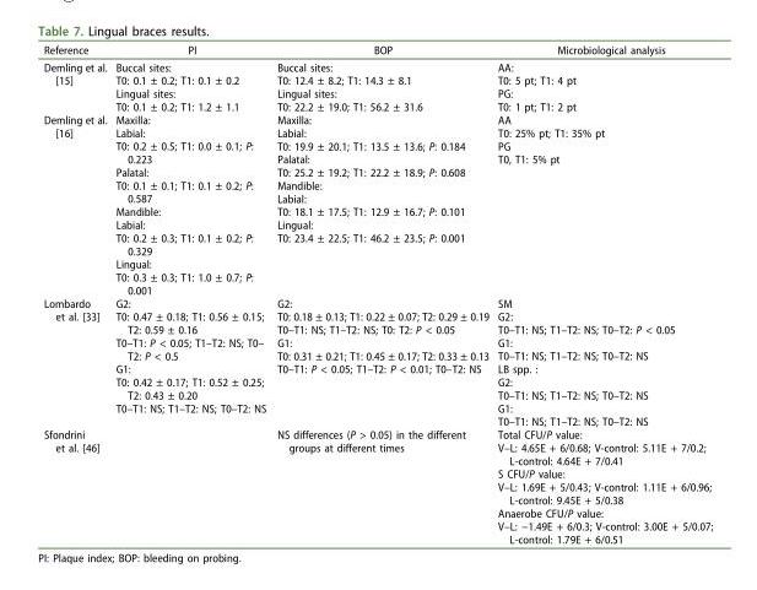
<table><thead><tr><td>Reference</td><td>PI</td><td>BOP</td><td>Microbiological analysis</td></tr></thead><tbody><tr><td>Demling et al. [15]</td><td>Buccal sites: T0: 0.1 ± 0.2; T1: 0.1 ± 0.2 Lingual sites: T0: 0.1 ± 0.2; T1: 1.2 ± 1.1</td><td>Buccal sites: T0: 12.4 ± 8.2; T1: 14.3 ± 8.1 Lingual sites: T0: 22.2 ± 19.0; T1: 56.2 ± 31.6</td><td>AA: T0: 5 pt; T1: 4 pt PG: T0: 1 pt; T1: 2 pt</td></tr><tr><td>Demling et al. [16]</td><td>Maxilla: Labial: T0: 0.2 ± 0.5; T1: 0.0 ± 0.1; P: 0.223 Palatal: T0: 0.1 ± 0.1; T1: 0.1 ± 0.2; P: 0.587 Mandible: Labial: T0: 0.2 ± 0.3; T1: 0.1 ± 0.2; P: 0.329 Lingual: T0: 0.3 ± 0.3; T1: 1.0 ± 0.7; P: 0.001</td><td>Maxilla: Labial: T0: 19.9 ± 20.1; T1: 13.5 ± 13.6; P: 0.184 Palatal: T0: 25.2 ± 19.2; T1: 22.2 ± 18.9; P: 0.608 Mandible: Labial: T0: 18.1 ± 17.5; T1: 12.9 ± 16.7; P: 0.101 Lingual: T0: 23.4 ± 22.5; T1: 46.2 ± 23.5; P: 0.001</td><td>AA T0: 25% pt; T1: 35% pt PG T0, T1: 5% pt</td></tr><tr><td>Lombardo et al. [33]</td><td>G2: T0: 0.47 ± 0.18; T1: 0.56 ± 0.15; T2: 0.59 ± 0.16 T0–T1: P &lt; 0.05; T1–T2: NS; T0– T2: P &lt; 0.5 G1: T0: 0.42 ± 0.17; T1: 0.52 ± 0.25; T2: 0.43 ± 0.20 T0–T1: NS; T1–T2: NS; T0–T2: NS</td><td>G2: T0: 0.18 ± 0.13; T1: 0.22 ± 0.07; T2: 0.29 ± 0.19 T0–T1: NS; T1–T2: NS; T0: T2: P &lt; 0.05 G1: T0: 0.31 ± 0.21; T1: 0.45 ± 0.17; T2: 0.33 ± 0.13 T0–T1: P &lt; 0.05; T1–T2: P &lt; 0.01; T0–T2: NS</td><td>SM G2: T0–T1: NS; T1–T2: NS; T0–T2: P &lt; 0.05 G1: T0–T1: NS; T1–T2: NS; T0–T2: NS LB spp. : G2: T0–T1: NS; T1–T2: NS; T0–T2: NS G1: T0–T1: NS; T1–T2: NS; T0–T2: NS</td></tr><tr><td>Sfondrini et al. [46]</td><td></td><td>NS differences (P &gt; 0.05) in the different groups at different times</td><td>Total CFU/P value: V–L: 4.65E + 6/0.68; V-control: 5.11E + 7/0.2; L-control: 4.64E + 7/0.41 S CFU/P value: V–L: 1.69E + 5/0.43; V-control: 1.11E + 6/0.96; L-control: 9.45E + 5/0.38 Anaerobe CFU/P value: V–L: −1.49E + 6/0.3; V-control: 3.00E + 5/0.07; L-control: 1.79E + 6/0.51</td></tr></tbody></table>